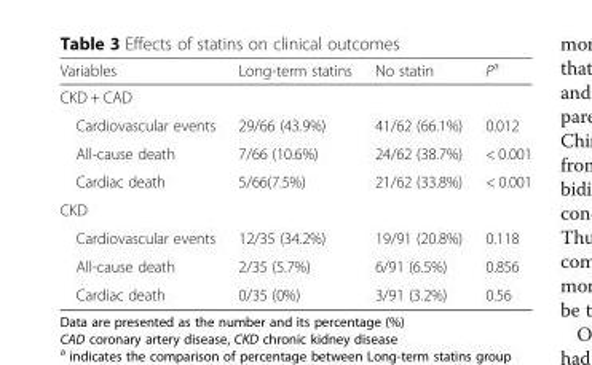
<table><thead><tr><td>Variables</td><td>Long-term statins</td><td>No statin</td><td>P<sup>a</sup></td></tr></thead><tbody><tr><td colspan="4">CKD + CAD</td></tr><tr><td>Cardiovascular events</td><td>29/66 (43.9%)</td><td>41/62 (66.1%)</td><td>0.012</td></tr><tr><td>All-cause death</td><td>7/66 (10.6%)</td><td>24/62 (38.7%)</td><td>&lt; 0.001</td></tr><tr><td>Cardiac death</td><td>5/66(7.5%)</td><td>21/62 (33.8%)</td><td>&lt; 0.001</td></tr><tr><td colspan="4">CKD</td></tr><tr><td>Cardiovascular events</td><td>12/35 (34.2%)</td><td>19/91 (20.8%)</td><td>0.118</td></tr><tr><td>All-cause death</td><td>2/35 (5.7%)</td><td>6/91 (6.5%)</td><td>0.856</td></tr><tr><td>Cardiac death</td><td>0/35 (0%)</td><td>3/91 (3.2%)</td><td>0.56</td></tr></tbody></table>